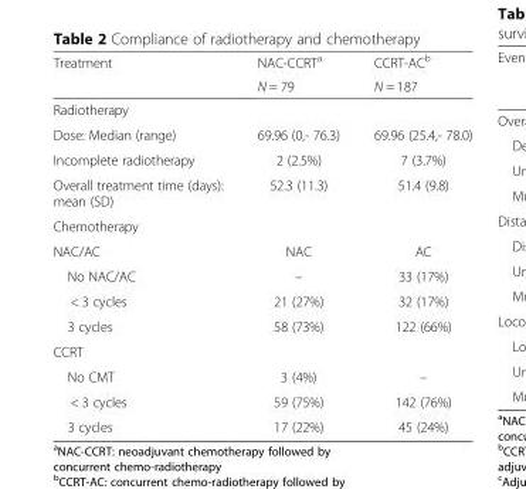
<table><thead><tr><td rowspan="2">Treatment</td><td rowspan="2">NAC-CCRT<sup>a</sup> N = 79</td><td rowspan="2">CCRT-AC<sup>b</sup> N = 187</td></tr><tr></tr></thead><tbody><tr><td colspan="3">Radiotherapy</td></tr><tr><td>Dose: Median (range)</td><td>69.96 (0,- 76.3)</td><td>69.96 (25.4,- 78.0)</td></tr><tr><td>Incomplete radiotherapy</td><td>2 (2.5%)</td><td>7 (3.7%)</td></tr><tr><td>Overall treatment time (days): mean (SD)</td><td>52.3 (11.3)</td><td>51.4 (9.8)</td></tr><tr><td colspan="3">Chemotherapy</td></tr><tr><td>NAC/AC</td><td>NAC</td><td>AC</td></tr><tr><td>No NAC/AC</td><td>–</td><td>33 (17%)</td></tr><tr><td>&lt; 3 cycles</td><td>21 (27%)</td><td>32 (17%)</td></tr><tr><td>3 cycles</td><td>58 (73%)</td><td>122 (66%)</td></tr><tr><td colspan="3">CCRT</td></tr><tr><td>No CMT</td><td>3 (4%)</td><td>–</td></tr><tr><td>&lt; 3 cycles</td><td>59 (75%)</td><td>142 (76%)</td></tr><tr><td>3 cycles</td><td>17 (22%)</td><td>45 (24%)</td></tr></tbody></table>